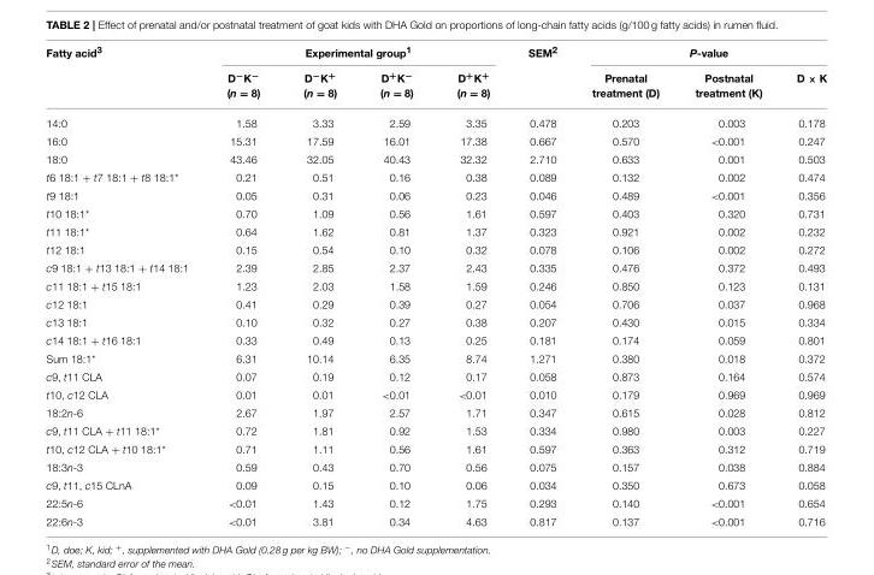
<table><thead><tr><td rowspan="2">Fatty acid<sup>3</sup></td><td colspan="4">Experimental group<sup>1</sup></td><td rowspan="2">SEM<sup>2</sup></td><td colspan="3">P-value</td></tr><tr><td>D<sup>−</sup>K<sup>−</sup> (n = 8)</td><td>D<sup>−</sup>K<sup>+</sup> (n = 8)</td><td>D<sup>+</sup>K<sup>−</sup> (n = 8)</td><td>D<sup>+</sup>K<sup>+</sup> (n = 8)</td><td>Prenatal treatment (D)</td><td>Postnatal treatment (K)</td><td>D × K</td></tr></thead><tbody><tr><td>14:0</td><td>1.58</td><td>3.33</td><td>2.59</td><td>3.35</td><td>0.478</td><td>0.203</td><td>0.003</td><td>0.178</td></tr><tr><td>16:0</td><td>15.31</td><td>17.59</td><td>16.01</td><td>17.38</td><td>0.667</td><td>0.570</td><td>&lt;0.001</td><td>0.247</td></tr><tr><td>18:0</td><td>43.46</td><td>32.05</td><td>40.43</td><td>32.32</td><td>2.710</td><td>0.633</td><td>0.001</td><td>0.503</td></tr><tr><td>t6 18:1 + t7 18:1 + t8 18:1*</td><td>0.21</td><td>0.51</td><td>0.16</td><td>0.38</td><td>0.089</td><td>0.132</td><td>0.002</td><td>0.474</td></tr><tr><td>t9 18:1</td><td>0.05</td><td>0.31</td><td>0.06</td><td>0.23</td><td>0.046</td><td>0.489</td><td>&lt;0.001</td><td>0.356</td></tr><tr><td>t10 18:1*</td><td>0.70</td><td>1.09</td><td>0.56</td><td>1.61</td><td>0.597</td><td>0.403</td><td>0.320</td><td>0.731</td></tr><tr><td>t11 18:1*</td><td>0.64</td><td>1.62</td><td>0.81</td><td>1.37</td><td>0.323</td><td>0.921</td><td>0.002</td><td>0.232</td></tr><tr><td>t12 18:1</td><td>0.15</td><td>0.54</td><td>0.10</td><td>0.32</td><td>0.078</td><td>0.106</td><td>0.002</td><td>0.272</td></tr><tr><td>c9 18:1 + t13 18:1 + t14 18:1</td><td>2.39</td><td>2.85</td><td>2.37</td><td>2.43</td><td>0.335</td><td>0.476</td><td>0.372</td><td>0.493</td></tr><tr><td>c11 18:1 + t15 18:1</td><td>1.23</td><td>2.03</td><td>1.58</td><td>1.59</td><td>0.246</td><td>0.850</td><td>0.123</td><td>0.131</td></tr><tr><td>c12 18:1</td><td>0.41</td><td>0.29</td><td>0.39</td><td>0.27</td><td>0.054</td><td>0.706</td><td>0.037</td><td>0.968</td></tr><tr><td>c13 18:1</td><td>0.10</td><td>0.32</td><td>0.27</td><td>0.38</td><td>0.207</td><td>0.430</td><td>0.015</td><td>0.334</td></tr><tr><td>c14 18:1 + t16 18:1</td><td>0.33</td><td>0.49</td><td>0.13</td><td>0.25</td><td>0.181</td><td>0.174</td><td>0.059</td><td>0.801</td></tr><tr><td>Sum 18:1*</td><td>6.31</td><td>10.14</td><td>6.35</td><td>8.74</td><td>1.271</td><td>0.380</td><td>0.018</td><td>0.372</td></tr><tr><td>c9, t11 CLA</td><td>0.07</td><td>0.19</td><td>0.12</td><td>0.17</td><td>0.058</td><td>0.873</td><td>0.164</td><td>0.574</td></tr><tr><td>t10, c12 CLA</td><td>0.01</td><td>0.01</td><td>&lt;0.01</td><td>&lt;0.01</td><td>0.010</td><td>0.179</td><td>0.969</td><td>0.969</td></tr><tr><td>18:2n-6</td><td>2.67</td><td>1.97</td><td>2.57</td><td>1.71</td><td>0.347</td><td>0.615</td><td>0.028</td><td>0.812</td></tr><tr><td>c9, t11 CLA + t11 18:1*</td><td>0.72</td><td>1.81</td><td>0.92</td><td>1.53</td><td>0.334</td><td>0.980</td><td>0.003</td><td>0.227</td></tr><tr><td>t10, c12 CLA + t10 18:1*</td><td>0.71</td><td>1.11</td><td>0.56</td><td>1.61</td><td>0.597</td><td>0.363</td><td>0.312</td><td>0.719</td></tr><tr><td>18:3n-3</td><td>0.59</td><td>0.43</td><td>0.70</td><td>0.56</td><td>0.075</td><td>0.157</td><td>0.038</td><td>0.884</td></tr><tr><td>c9, t11, c15 CLnA</td><td>0.09</td><td>0.15</td><td>0.10</td><td>0.06</td><td>0.034</td><td>0.350</td><td>0.673</td><td>0.058</td></tr><tr><td>22:5n-6</td><td>&lt;0.01</td><td>1.43</td><td>0.12</td><td>1.75</td><td>0.293</td><td>0.140</td><td>&lt;0.001</td><td>0.654</td></tr><tr><td>22:6n-3</td><td>&lt;0.01</td><td>3.81</td><td>0.34</td><td>4.63</td><td>0.817</td><td>0.137</td><td>&lt;0.001</td><td>0.716</td></tr></tbody></table>